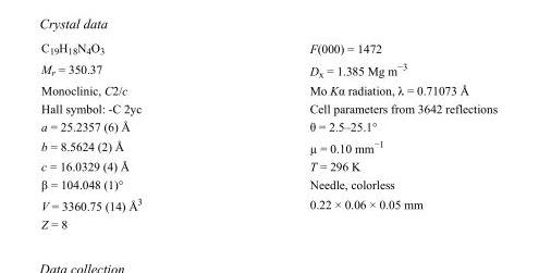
<table><tbody><tr><td>C<sub>19</sub>H<sub>18</sub>N<sub>4</sub>O<sub>3</sub></td><td>F(000) = 1472</td></tr><tr><td>M<sub>r</sub> = 350.37</td><td>D<sub>x</sub> = 1.385 Mg m<sup>−3</sup></td></tr><tr><td>Monoclinic, C2/c</td><td>Mo Kα radiation, λ = 0.71073 Å</td></tr><tr><td>Hall symbol: -C 2yc</td><td>Cell parameters from 3642 reflections</td></tr><tr><td>a = 25.2357 (6) Å</td><td>θ = 2.5–25.1°</td></tr><tr><td>b = 8.5624 (2) Å</td><td>µ = 0.10 mm<sup>−1</sup></td></tr><tr><td>c = 16.0329 (4) Å</td><td>T = 296 K</td></tr><tr><td>β = 104.048 (1)°</td><td>Needle, colorless</td></tr><tr><td>V = 3360.75 (14) Å<sup>3</sup></td><td>0.22 × 0.06 × 0.05 mm</td></tr><tr><td>Z = 8</td><td></td></tr></tbody></table>